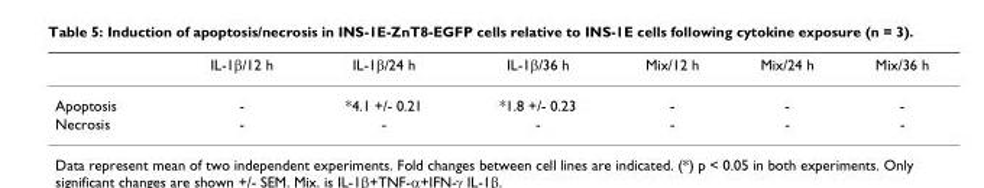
<table><thead><tr><td></td><td>IL-1β/12 h</td><td>IL-1β/24 h</td><td>IL-1β/36 h</td><td>Mix/12 h</td><td>Mix/24 h</td><td>Mix/36 h</td></tr></thead><tbody><tr><td>Apoptosis</td><td>-</td><td>*4.1 +/- 0.21</td><td>*1.8 +/- 0.23</td><td>-</td><td>-</td><td>-</td></tr><tr><td>Necrosis</td><td>-</td><td>-</td><td>-</td><td>-</td><td>-</td><td>-</td></tr></tbody></table>